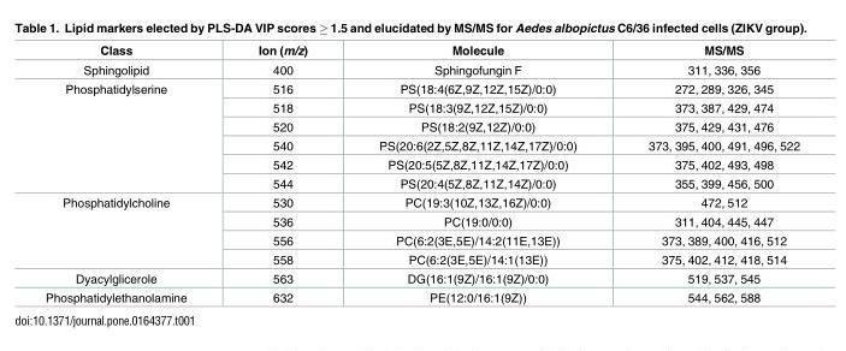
<table><thead><tr><td>Class</td><td>Ion (m/z)</td><td>Molecule</td><td>MS/MS</td></tr></thead><tbody><tr><td>Sphingolipid</td><td>400</td><td>Sphingofungin F</td><td>311, 336, 356</td></tr><tr><td rowspan="6">Phosphatidylserine</td><td>516</td><td>PS(18:4(6Z,9Z,12Z,15Z)/0:0)</td><td>272, 289, 326, 345</td></tr><tr><td>518</td><td>PS(18:3(9Z,12Z,15Z)/0:0)</td><td>373, 387, 429, 474</td></tr><tr><td>520</td><td>PS(18:2(9Z,12Z)/0:0)</td><td>375, 429, 431, 476</td></tr><tr><td>540</td><td>PS(20:6(2Z,5Z,8Z,11Z,14Z,17Z)/0:0)</td><td>373, 395, 400, 491, 496, 522</td></tr><tr><td>542</td><td>PS(20:5(5Z,8Z,11Z,14Z,17Z)/0:0)</td><td>375, 402, 493, 498</td></tr><tr><td>544</td><td>PS(20:4(5Z,8Z,11Z,14Z)/0:0)</td><td>355, 399, 456, 500</td></tr><tr><td rowspan="4">Phosphatidylcholine</td><td>530</td><td>PC(19:3(10Z,13Z,16Z)/0:0)</td><td>472, 512</td></tr><tr><td>536</td><td>PC(19:0/0:0)</td><td>311, 404, 445, 447</td></tr><tr><td>556</td><td>PC(6:2(3E,5E)/14:2(11E,13E))</td><td>373, 389, 400, 416, 512</td></tr><tr><td>558</td><td>PC(6:2(3E,5E)/14:1(13E))</td><td>375, 402, 412, 418, 514</td></tr><tr><td>Dyacylglicerole</td><td>563</td><td>DG(16:1(9Z)/16:1(9Z)/0:0)</td><td>519, 537, 545</td></tr><tr><td>Phosphatidylethanolamine</td><td>632</td><td>PE(12:0/16:1(9Z))</td><td>544, 562, 588</td></tr></tbody></table>